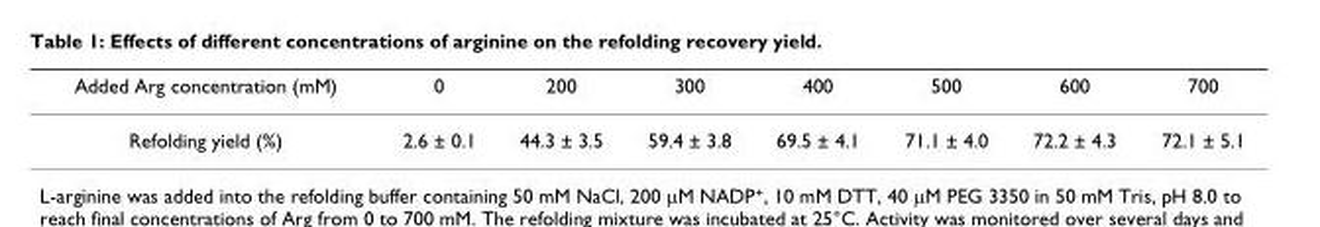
<table><thead><tr><td>Added Arg concentration (mM)</td><td>0</td><td>200</td><td>300</td><td>400</td><td>500</td><td>600</td><td>700</td></tr></thead><tbody><tr><td>Refolding yield (%)</td><td>2.6 ± 0.1</td><td>44.3 ± 3.5</td><td>59.4 ± 3.8</td><td>69.5 ± 4.1</td><td>71.1 ± 4.0</td><td>72.2 ± 4.3</td><td>72.1 ± 5.1</td></tr></tbody></table>